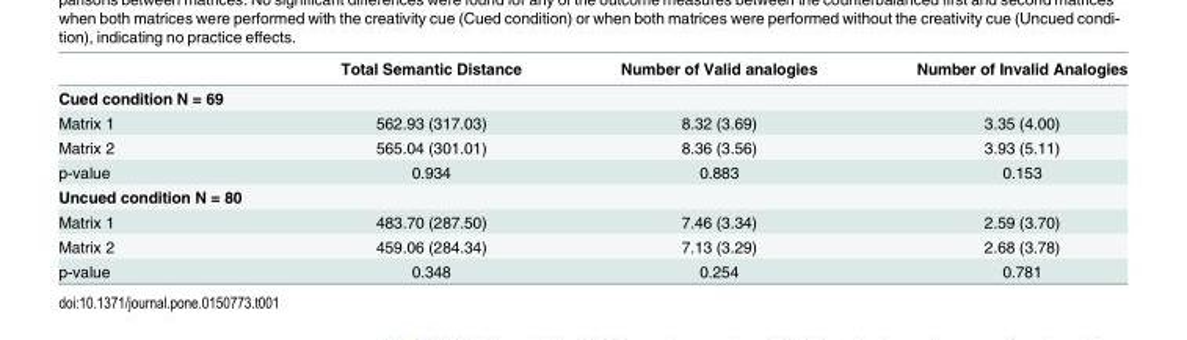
<table><thead><tr><td></td><td>Total Semantic Distance</td><td>Number of Valid analogies</td><td>Number of Invalid Analogies</td></tr></thead><tbody><tr><td colspan="4">Cued condition N = 69</td></tr><tr><td>Matrix 1</td><td>562.93 (317.03)</td><td>8.32 (3.69)</td><td>3.35 (4.00)</td></tr><tr><td>Matrix 2</td><td>565.04 (301.01)</td><td>8.36 (3.56)</td><td>3.93 (5.11)</td></tr><tr><td>p-value</td><td>0.934</td><td>0.883</td><td>0.153</td></tr><tr><td colspan="4">Uncued condition N = 80</td></tr><tr><td>Matrix 1</td><td>483.70 (287.50)</td><td>7.46 (3.34)</td><td>2.59 (3.70)</td></tr><tr><td>Matrix 2</td><td>459.06 (284.34)</td><td>7.13 (3.29)</td><td>2.68 (3.78)</td></tr><tr><td>p-value</td><td>0.348</td><td>0.254</td><td>0.781</td></tr></tbody></table>